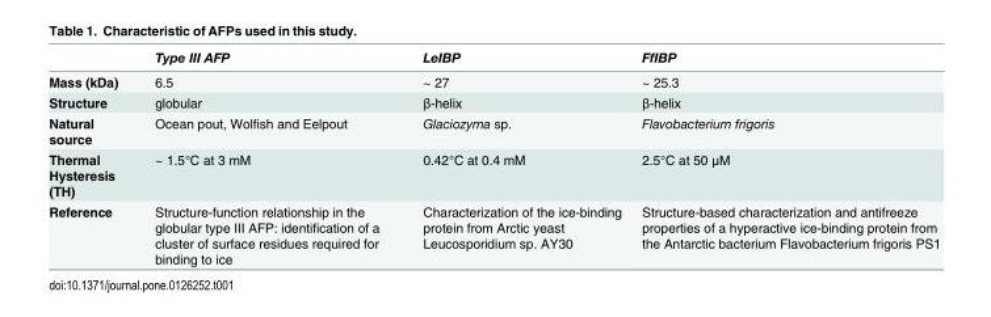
<table><thead><tr><td></td><td>Type III AFP</td><td>LeIBP</td><td>FfIBP</td></tr></thead><tbody><tr><td>Mass (kDa)</td><td>6.5</td><td>~ 27</td><td>~ 25.3</td></tr><tr><td>Structure</td><td>globular</td><td>β-helix</td><td>β-helix</td></tr><tr><td>Natural source</td><td>Ocean pout, Wolfish and Eelpout</td><td>Glaciozyma sp.</td><td>Flavobacterium frigoris</td></tr><tr><td>Thermal Hysteresis (TH)</td><td>~ 1.5°C at 3 mM</td><td>0.42°C at 0.4 mM</td><td>2.5°C at 50 μM</td></tr><tr><td>Reference</td><td>Structure-function relationship in the globular type III AFP: identification of a cluster of surface residues required for binding to ice</td><td>Characterization of the ice-binding protein from Arctic yeast Leucosporidium sp. AY30</td><td>Structure-based characterization and antifreeze properties of a hyperactive ice-binding protein from the Antarctic bacterium Flavobacterium frigoris PS1</td></tr></tbody></table>